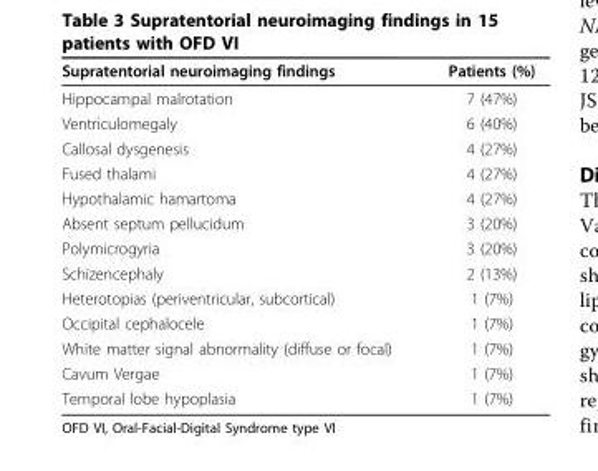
<table><thead><tr><td>Supratentorial neuroimaging findings</td><td>Patients (%)</td></tr></thead><tbody><tr><td>Hippocampal malrotation</td><td>7 (47%)</td></tr><tr><td>Ventriculomegaly</td><td>6 (40%)</td></tr><tr><td>Callosal dysgenesis</td><td>4 (27%)</td></tr><tr><td>Fused thalami</td><td>4 (27%)</td></tr><tr><td>Hypothalamic hamartoma</td><td>4 (27%)</td></tr><tr><td>Absent septum pellucidum</td><td>3 (20%)</td></tr><tr><td>Polymicrogyria</td><td>3 (20%)</td></tr><tr><td>Schizencephaly</td><td>2 (13%)</td></tr><tr><td>Heterotopias (periventricular, subcortical)</td><td>1 (7%)</td></tr><tr><td>Occipital cephalocele</td><td>1 (7%)</td></tr><tr><td>White matter signal abnormality (diffuse or focal)</td><td>1 (7%)</td></tr><tr><td>Cavum Vergae</td><td>1 (7%)</td></tr><tr><td>Temporal lobe hypoplasia</td><td>1 (7%)</td></tr></tbody></table>